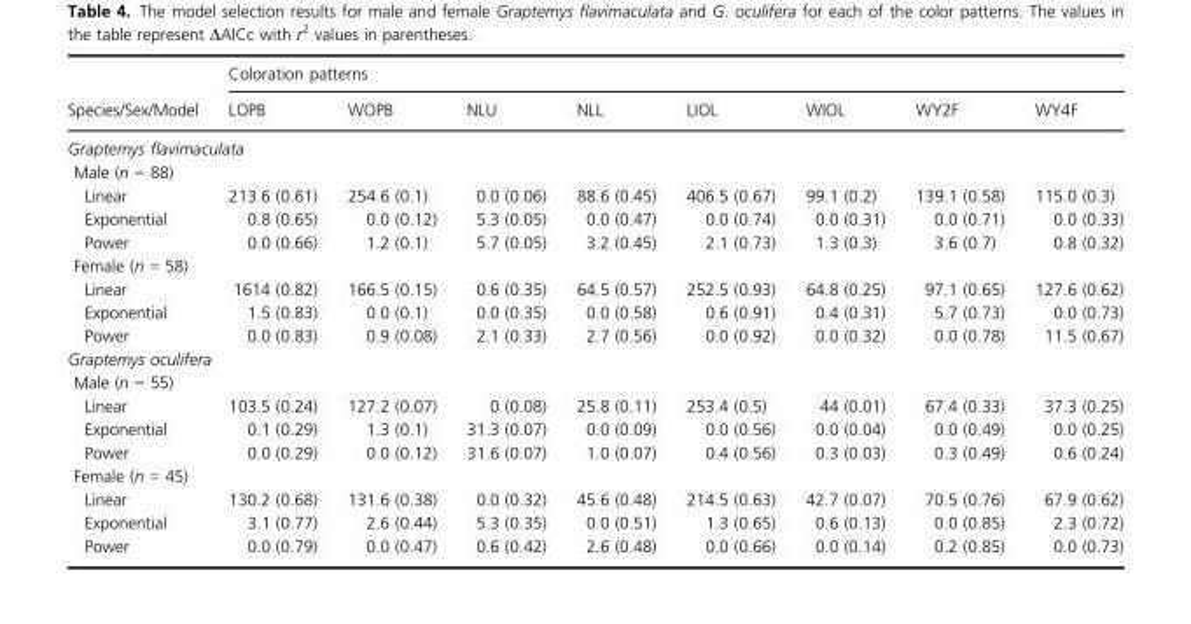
<table><thead><tr><td rowspan="2">Species/Sex/Model</td><td colspan="8">Coloration patterns</td></tr><tr><td>LOPB</td><td>WOPB</td><td>NLU</td><td>NLL</td><td>LIOL</td><td>WIOL</td><td>WY2F</td><td>WY4F</td></tr></thead><tbody><tr><td colspan="9">Graptemys flavimaculata</td></tr><tr><td colspan="9">Male (n = 88)</td></tr><tr><td>Linear</td><td>213.6 (0.61)</td><td>254.6 (0.1)</td><td>0.0 (0.06)</td><td>88.6 (0.45)</td><td>406.5 (0.67)</td><td>99.1 (0.2)</td><td>139.1 (0.58)</td><td>115.0 (0.3)</td></tr><tr><td>Exponential</td><td>0.8 (0.65)</td><td>0.0 (0.12)</td><td>5.3 (0.05)</td><td>0.0 (0.47)</td><td>0.0 (0.74)</td><td>0.0 (0.31)</td><td>0.0 (0.71)</td><td>0.0 (0.33)</td></tr><tr><td>Power</td><td>0.0 (0.66)</td><td>1.2 (0.1)</td><td>5.7 (0.05)</td><td>3.2 (0.45)</td><td>2.1 (0.73)</td><td>1.3 (0.3)</td><td>3.6 (0.7)</td><td>0.8 (0.32)</td></tr><tr><td colspan="9">Female (n = 58)</td></tr><tr><td>Linear</td><td>1614 (0.82)</td><td>166.5 (0.15)</td><td>0.6 (0.35)</td><td>64.5 (0.57)</td><td>252.5 (0.93)</td><td>64.8 (0.25)</td><td>97.1 (0.65)</td><td>127.6 (0.62)</td></tr><tr><td>Exponential</td><td>1.5 (0.83)</td><td>0.0 (0.1)</td><td>0.0 (0.35)</td><td>0.0 (0.58)</td><td>0.6 (0.91)</td><td>0.4 (0.31)</td><td>5.7 (0.73)</td><td>0.0 (0.73)</td></tr><tr><td>Power</td><td>0.0 (0.83)</td><td>0.9 (0.08)</td><td>2.1 (0.33)</td><td>2.7 (0.56)</td><td>0.0 (0.92)</td><td>0.0 (0.32)</td><td>0.0 (0.78)</td><td>11.5 (0.67)</td></tr><tr><td colspan="9">Graptemys oculifera</td></tr><tr><td colspan="9">Male (n = 55)</td></tr><tr><td>Linear</td><td>103.5 (0.24)</td><td>127.2 (0.07)</td><td>0 (0.08)</td><td>25.8 (0.11)</td><td>253.4 (0.5)</td><td>44 (0.01)</td><td>67.4 (0.33)</td><td>37.3 (0.25)</td></tr><tr><td>Exponential</td><td>0.1 (0.29)</td><td>1.3 (0.1)</td><td>31.3 (0.07)</td><td>0.0 (0.09)</td><td>0.0 (0.56)</td><td>0.0 (0.04)</td><td>0.0 (0.49)</td><td>0.0 (0.25)</td></tr><tr><td>Power</td><td>0.0 (0.29)</td><td>0.0 (0.12)</td><td>31.6 (0.07)</td><td>1.0 (0.07)</td><td>0.4 (0.56)</td><td>0.3 (0.03)</td><td>0.3 (0.49)</td><td>0.6 (0.24)</td></tr><tr><td colspan="9">Female (n = 45)</td></tr><tr><td>Linear</td><td>130.2 (0.68)</td><td>131.6 (0.38)</td><td>0.0 (0.32)</td><td>45.6 (0.48)</td><td>214.5 (0.63)</td><td>42.7 (0.07)</td><td>70.5 (0.76)</td><td>67.9 (0.62)</td></tr><tr><td>Exponential</td><td>3.1 (0.77)</td><td>2.6 (0.44)</td><td>5.3 (0.35)</td><td>0.0 (0.51)</td><td>1.3 (0.65)</td><td>0.6 (0.13)</td><td>0.0 (0.85)</td><td>2.3 (0.72)</td></tr><tr><td>Power</td><td>0.0 (0.79)</td><td>0.0 (0.47)</td><td>0.6 (0.42)</td><td>2.6 (0.48)</td><td>0.0 (0.66)</td><td>0.0 (0.14)</td><td>0.2 (0.85)</td><td>0.0 (0.73)</td></tr></tbody></table>